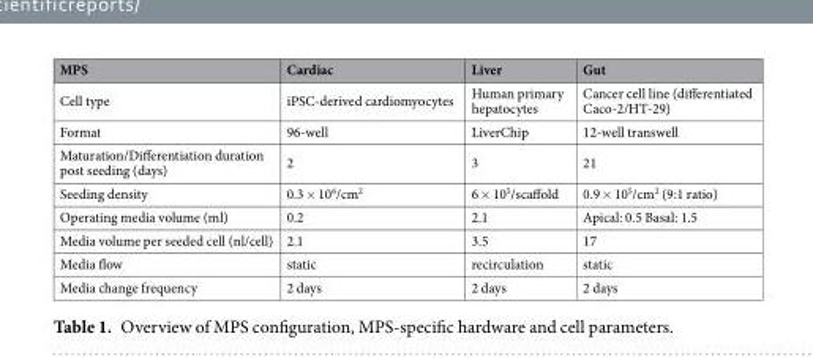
<table><thead><tr><td>MPS</td><td>Cardiac</td><td>Liver</td><td>Gut</td></tr></thead><tbody><tr><td>Cell type</td><td>iPSC-derived cardiomyocytes</td><td>Human primary hepatocytes</td><td>Cancer cell line (differentiated Caco-2/HT-29)</td></tr><tr><td>Format</td><td>96-well</td><td>LiverChip</td><td>12-well transwell</td></tr><tr><td>Maturation/Differentiation duration post seeding (days)</td><td>2</td><td>3</td><td>21</td></tr><tr><td>Seeding density</td><td>0.3 × 10<sup>6</sup>/cm<sup>2</sup></td><td>6 × 10<sup>5</sup>/scaffold</td><td>0.9 × 10<sup>5</sup>/cm<sup>2</sup> (9:1 ratio)</td></tr><tr><td>Operating media volume (ml)</td><td>0.2</td><td>2.1</td><td>Apical: 0.5 Basal: 1.5</td></tr><tr><td>Media volume per seeded cell (nl/cell)</td><td>2.1</td><td>3.5</td><td>17</td></tr><tr><td>Media flow</td><td>static</td><td>recirculation</td><td>static</td></tr><tr><td>Media change frequency</td><td>2 days</td><td>2 days</td><td>2 days</td></tr></tbody></table>